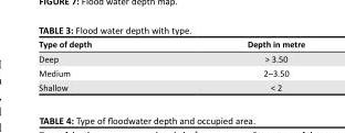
<table><thead><tr><td>Type of depth</td><td>Depth in metre</td></tr></thead><tbody><tr><td>Deep</td><td>&gt; 3.50</td></tr><tr><td>Medium</td><td>2–3.50</td></tr><tr><td>Shallow</td><td>&lt; 2</td></tr></tbody></table>